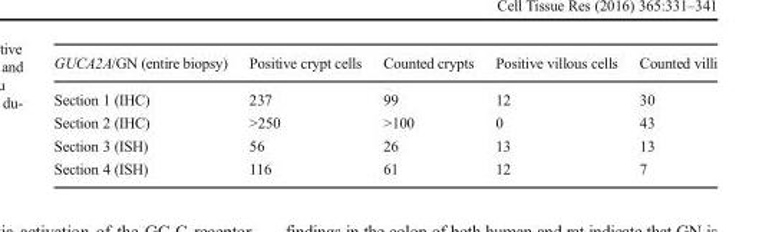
<table><thead><tr><td>GUCA2A/GN (entire biopsy)</td><td>Positive crypt cells</td><td>Counted crypts</td><td>Positive villous cells</td><td>Counted villi</td></tr></thead><tbody><tr><td>Section 1 (IHC)</td><td>237</td><td>99</td><td>12</td><td>30</td></tr><tr><td>Section 2 (IHC)</td><td>&gt;250</td><td>&gt;100</td><td>0</td><td>43</td></tr><tr><td>Section 3 (ISH)</td><td>56</td><td>26</td><td>13</td><td>13</td></tr><tr><td>Section 4 (ISH)</td><td>116</td><td>61</td><td>12</td><td>7</td></tr></tbody></table>